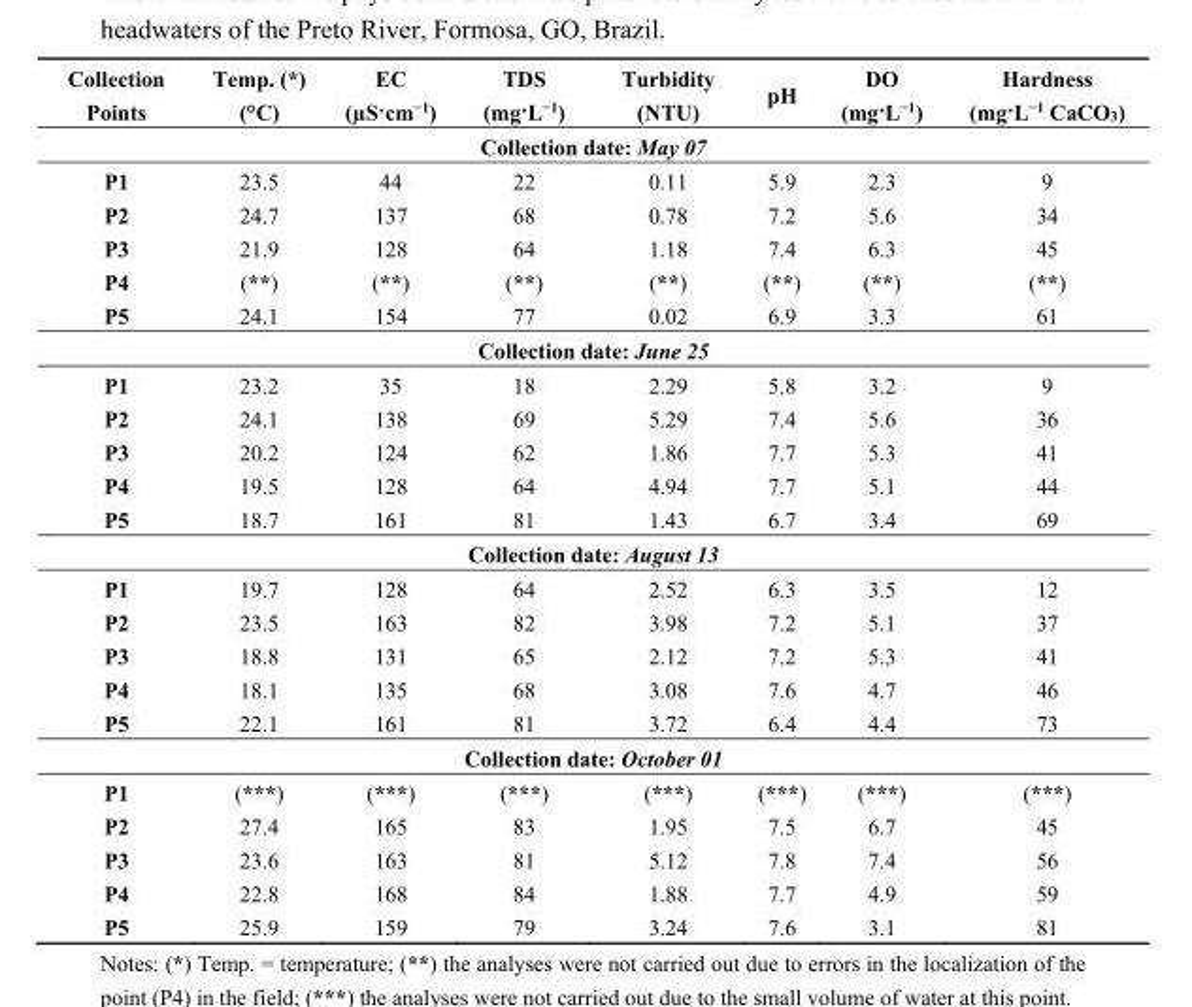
<table><thead><tr><td>Collection Points</td><td>Temp. (*) (°C)</td><td>EC (µS·cm<sup>−1</sup>)</td><td>TDS (mg·L<sup>−1</sup>)</td><td>Turbidity (NTU)</td><td>pH</td><td>DO (mg·L<sup>−1</sup>)</td><td>Hardness (mg·L<sup>−1</sup> CaCO<sub>3</sub>)</td></tr></thead><tbody><tr><td colspan="8">Collection date: May 07</td></tr><tr><td>P1</td><td>23.5</td><td>44</td><td>22</td><td>0.11</td><td>5.9</td><td>2.3</td><td>9</td></tr><tr><td>P2</td><td>24.7</td><td>137</td><td>68</td><td>0.78</td><td>7.2</td><td>5.6</td><td>34</td></tr><tr><td>P3</td><td>21.9</td><td>128</td><td>64</td><td>1.18</td><td>7.4</td><td>6.3</td><td>45</td></tr><tr><td>P4</td><td>(**)</td><td>(**)</td><td>(**)</td><td>(**)</td><td>(**)</td><td>(**)</td><td>(**)</td></tr><tr><td>P5</td><td>24.1</td><td>154</td><td>77</td><td>0.02</td><td>6.9</td><td>3.3</td><td>61</td></tr><tr><td colspan="8">Collection date: June 25</td></tr><tr><td>P1</td><td>23.2</td><td>35</td><td>18</td><td>2.29</td><td>5.8</td><td>3.2</td><td>9</td></tr><tr><td>P2</td><td>24.1</td><td>138</td><td>69</td><td>5.29</td><td>7.4</td><td>5.6</td><td>36</td></tr><tr><td>P3</td><td>20.2</td><td>124</td><td>62</td><td>1.86</td><td>7.7</td><td>5.3</td><td>41</td></tr><tr><td>P4</td><td>19.5</td><td>128</td><td>64</td><td>4.94</td><td>7.7</td><td>5.1</td><td>44</td></tr><tr><td>P5</td><td>18.7</td><td>161</td><td>81</td><td>1.43</td><td>6.7</td><td>3.4</td><td>69</td></tr><tr><td colspan="8">Collection date: August 13</td></tr><tr><td>P1</td><td>19.7</td><td>128</td><td>64</td><td>2.52</td><td>6.3</td><td>3.5</td><td>12</td></tr><tr><td>P2</td><td>23.5</td><td>163</td><td>82</td><td>3.98</td><td>7.2</td><td>5.1</td><td>37</td></tr><tr><td>P3</td><td>18.8</td><td>131</td><td>65</td><td>2.12</td><td>7.2</td><td>5.3</td><td>41</td></tr><tr><td>P4</td><td>18.1</td><td>135</td><td>68</td><td>3.08</td><td>7.6</td><td>4.7</td><td>46</td></tr><tr><td>P5</td><td>22.1</td><td>161</td><td>81</td><td>3.72</td><td>6.4</td><td>4.4</td><td>73</td></tr><tr><td colspan="8">Collection date: October 01</td></tr><tr><td>P1</td><td>(***)</td><td>(***)</td><td>(***)</td><td>(***)</td><td>(***)</td><td>(***)</td><td>(***)</td></tr><tr><td>P2</td><td>27.4</td><td>165</td><td>83</td><td>1.95</td><td>7.5</td><td>6.7</td><td>45</td></tr><tr><td>P3</td><td>23.6</td><td>163</td><td>81</td><td>5.12</td><td>7.8</td><td>7.4</td><td>56</td></tr><tr><td>P4</td><td>22.8</td><td>168</td><td>84</td><td>1.88</td><td>7.7</td><td>4.9</td><td>59</td></tr><tr><td>P5</td><td>25.9</td><td>159</td><td>79</td><td>3.24</td><td>7.6</td><td>3.1</td><td>81</td></tr></tbody></table>